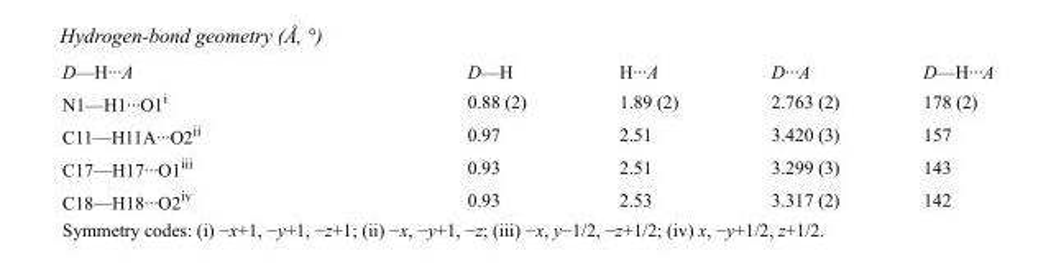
<table><tbody><tr><td>D—H···A</td><td>D—H</td><td>H···A</td><td>D···A</td><td>D—H···A</td></tr><tr><td>N1—H1···O1<sup>i</sup></td><td>0.88 (2)</td><td>1.89 (2)</td><td>2.763 (2)</td><td>178 (2)</td></tr><tr><td>C11—H11A···O2<sup>ii</sup></td><td>0.97</td><td>2.51</td><td>3.420 (3)</td><td>157</td></tr><tr><td>C17—H17···O1<sup>iii</sup></td><td>0.93</td><td>2.51</td><td>3.299 (3)</td><td>143</td></tr><tr><td>C18—H18···O2<sup>iv</sup></td><td>0.93</td><td>2.53</td><td>3.317 (2)</td><td>142</td></tr></tbody></table>